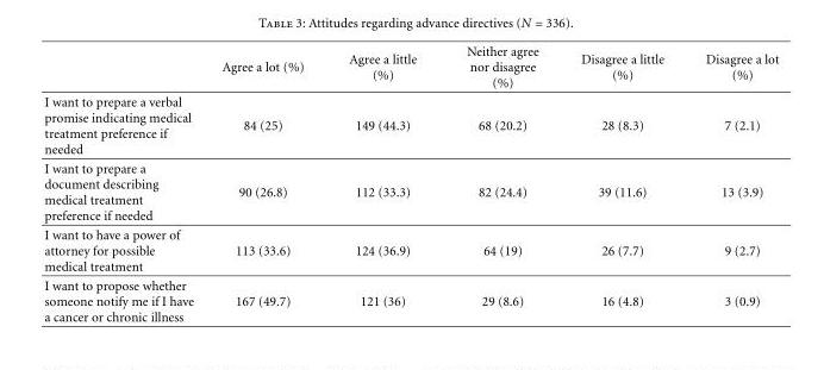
<table><thead><tr><td></td><td>Agree a lot (%)</td><td>Agree a little (%)</td><td>Neither agree nor disagree (%)</td><td>Disagree a little (%)</td><td>Disagree a lot (%)</td></tr></thead><tbody><tr><td>I want to prepare a verbal promise indicating medical treatment preference if needed</td><td>84 (25)</td><td>149 (44.3)</td><td>68 (20.2)</td><td>28 (8.3)</td><td>7 (2.1)</td></tr><tr><td>I want to prepare a document describing medical treatment preference if needed</td><td>90 (26.8)</td><td>112 (33.3)</td><td>82 (24.4)</td><td>39 (11.6)</td><td>13 (3.9)</td></tr><tr><td>I want to have a power of attorney for possible medical treatment</td><td>113 (33.6)</td><td>124 (36.9)</td><td>64 (19)</td><td>26 (7.7)</td><td>9 (2.7)</td></tr><tr><td>I want to propose whether someone notify me if I have a cancer or chronic illness</td><td>167 (49.7)</td><td>121 (36)</td><td>29 (8.6)</td><td>16 (4.8)</td><td>3 (0.9)</td></tr></tbody></table>